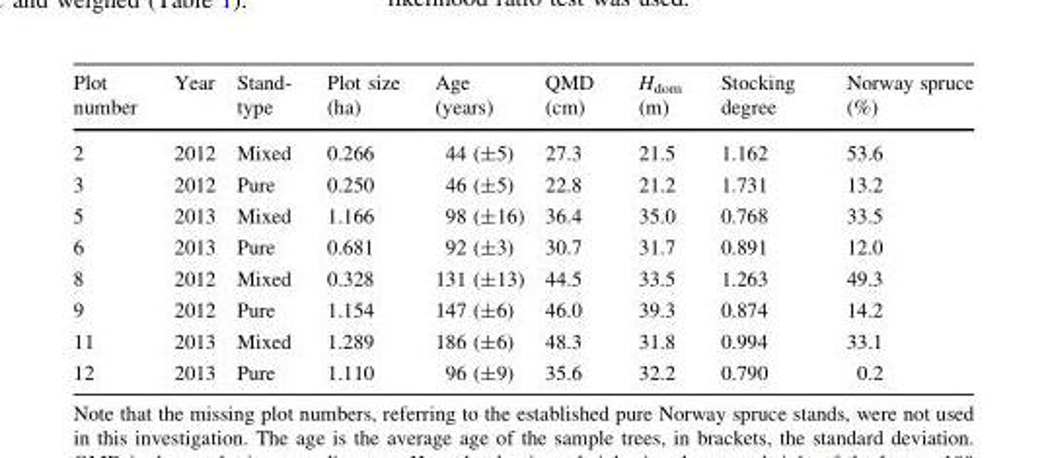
<table><thead><tr><td>Plot number</td><td>Year</td><td>Stand- type</td><td>Plot size (ha)</td><td>Age (years)</td><td>QMD (cm)</td><td>H<sub>dom</sub> (m)</td><td>Stocking degree</td><td>Norway spruce (%)</td></tr></thead><tbody><tr><td>2</td><td>2012</td><td>Mixed</td><td>0.266</td><td>44 (±5)</td><td>27.3</td><td>21.5</td><td>1.162</td><td>53.6</td></tr><tr><td>3</td><td>2012</td><td>Pure</td><td>0.250</td><td>46 (±5)</td><td>22.8</td><td>21.2</td><td>1.731</td><td>13.2</td></tr><tr><td>5</td><td>2013</td><td>Mixed</td><td>1.166</td><td>98 (±16)</td><td>36.4</td><td>35.0</td><td>0.768</td><td>33.5</td></tr><tr><td>6</td><td>2013</td><td>Pure</td><td>0.681</td><td>92 (±3)</td><td>30.7</td><td>31.7</td><td>0.891</td><td>12.0</td></tr><tr><td>8</td><td>2012</td><td>Mixed</td><td>0.328</td><td>131 (±13)</td><td>44.5</td><td>33.5</td><td>1.263</td><td>49.3</td></tr><tr><td>9</td><td>2012</td><td>Pure</td><td>1.154</td><td>147 (±6)</td><td>46.0</td><td>39.3</td><td>0.874</td><td>14.2</td></tr><tr><td>11</td><td>2013</td><td>Mixed</td><td>1.289</td><td>186 (±6)</td><td>48.3</td><td>31.8</td><td>0.994</td><td>33.1</td></tr><tr><td>12</td><td>2013</td><td>Pure</td><td>1.110</td><td>96 (±9)</td><td>35.6</td><td>32.2</td><td>0.790</td><td>0.2</td></tr></tbody></table>